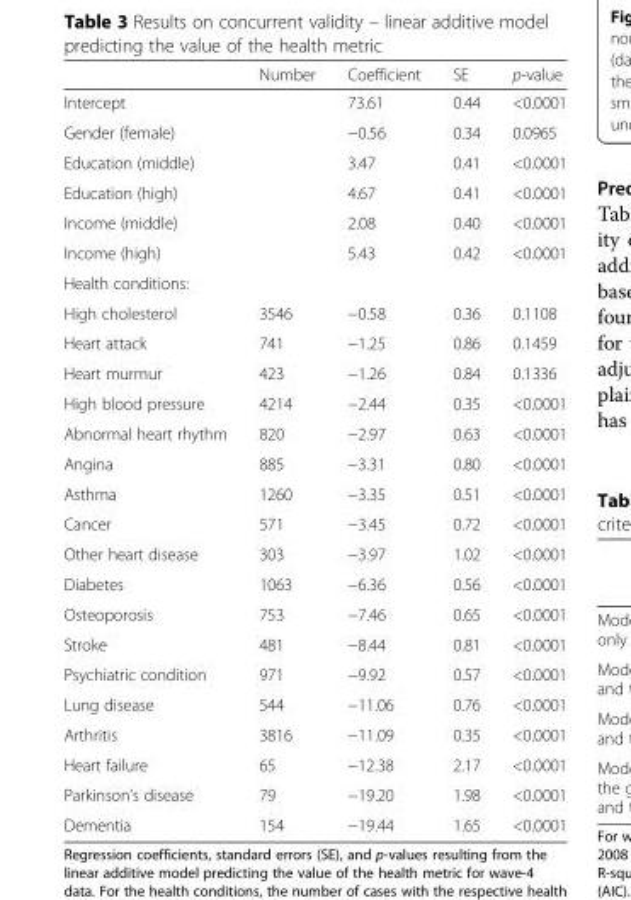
<table><thead><tr><td></td><td>Number</td><td>Coefficient</td><td>SE</td><td>p-value</td></tr></thead><tbody><tr><td>Intercept</td><td></td><td>73.61</td><td>0.44</td><td>&lt;0.0001</td></tr><tr><td>Gender (female)</td><td></td><td>−0.56</td><td>0.34</td><td>0.0965</td></tr><tr><td>Education (middle)</td><td></td><td>3.47</td><td>0.41</td><td>&lt;0.0001</td></tr><tr><td>Education (high)</td><td></td><td>4.67</td><td>0.41</td><td>&lt;0.0001</td></tr><tr><td>Income (middle)</td><td></td><td>2.08</td><td>0.40</td><td>&lt;0.0001</td></tr><tr><td>Income (high)</td><td></td><td>5.43</td><td>0.42</td><td>&lt;0.0001</td></tr><tr><td colspan="5">Health conditions:</td></tr><tr><td>High cholesterol</td><td>3546</td><td>−0.58</td><td>0.36</td><td>0.1108</td></tr><tr><td>Heart attack</td><td>741</td><td>−1.25</td><td>0.86</td><td>0.1459</td></tr><tr><td>Heart murmur</td><td>423</td><td>−1.26</td><td>0.84</td><td>0.1336</td></tr><tr><td>High blood pressure</td><td>4214</td><td>−2.44</td><td>0.35</td><td>&lt;0.0001</td></tr><tr><td>Abnormal heart rhythm</td><td>820</td><td>−2.97</td><td>0.63</td><td>&lt;0.0001</td></tr><tr><td>Angina</td><td>885</td><td>−3.31</td><td>0.80</td><td>&lt;0.0001</td></tr><tr><td>Asthma</td><td>1260</td><td>−3.35</td><td>0.51</td><td>&lt;0.0001</td></tr><tr><td>Cancer</td><td>571</td><td>−3.45</td><td>0.72</td><td>&lt;0.0001</td></tr><tr><td>Other heart disease</td><td>303</td><td>−3.97</td><td>1.02</td><td>&lt;0.0001</td></tr><tr><td>Diabetes</td><td>1063</td><td>−6.36</td><td>0.56</td><td>&lt;0.0001</td></tr><tr><td>Osteoporosis</td><td>753</td><td>−7.46</td><td>0.65</td><td>&lt;0.0001</td></tr><tr><td>Stroke</td><td>481</td><td>−8.44</td><td>0.81</td><td>&lt;0.0001</td></tr><tr><td>Psychiatric condition</td><td>971</td><td>−9.92</td><td>0.57</td><td>&lt;0.0001</td></tr><tr><td>Lung disease</td><td>544</td><td>−11.06</td><td>0.76</td><td>&lt;0.0001</td></tr><tr><td>Arthritis</td><td>3816</td><td>−11.09</td><td>0.35</td><td>&lt;0.0001</td></tr><tr><td>Heart failure</td><td>65</td><td>−12.38</td><td>2.17</td><td>&lt;0.0001</td></tr><tr><td>Parkinson’s disease</td><td>79</td><td>−19.20</td><td>1.98</td><td>&lt;0.0001</td></tr><tr><td>Dementia</td><td>154</td><td>−19.44</td><td>1.65</td><td>&lt;0.0001</td></tr></tbody></table>